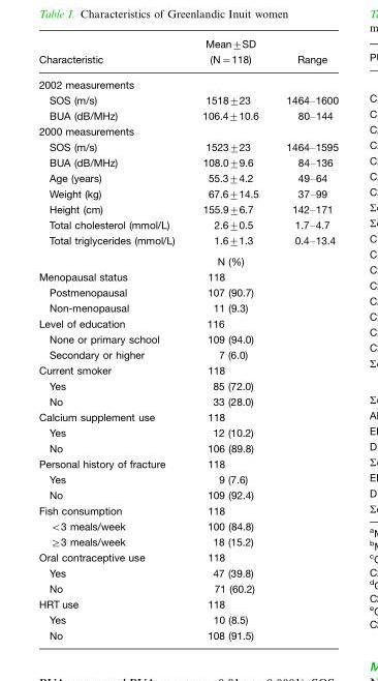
<table><thead><tr><td>Characteristic</td><td>Mean±SD (N=118)</td><td>Range</td></tr></thead><tbody><tr><td colspan="3">2002 measurements</td></tr><tr><td>SOS (m/s)</td><td>1518±23</td><td>1464–1600</td></tr><tr><td>BUA (dB/MHz)</td><td>106.4±10.6</td><td>80–144</td></tr><tr><td colspan="3">2000 measurements</td></tr><tr><td>SOS (m/s)</td><td>1523±23</td><td>1464–1595</td></tr><tr><td>BUA (dB/MHz)</td><td>108.0±9.6</td><td>84–136</td></tr><tr><td>Age (years)</td><td>55.3±4.2</td><td>49–64</td></tr><tr><td>Weight (kg)</td><td>67.6±14.5</td><td>37–99</td></tr><tr><td>Height (cm)</td><td>155.9±6.7</td><td>142–171</td></tr><tr><td>Total cholesterol (mmol/L)</td><td>2.6±0.5</td><td>1.7–4.7</td></tr><tr><td rowspan="2">Total triglycerides (mmol/L)</td><td>1.6±1.3</td><td>0.4–13.4</td></tr><tr><td>N (%)</td><td></td></tr><tr><td>Menopausal status</td><td>118</td><td></td></tr><tr><td>Postmenopausal</td><td>107 (90.7)</td><td></td></tr><tr><td>Non-menopausal</td><td>11 (9.3)</td><td></td></tr><tr><td>Level of education</td><td>116</td><td></td></tr><tr><td>None or primary school</td><td>109 (94.0)</td><td></td></tr><tr><td>Secondary or higher</td><td>7 (6.0)</td><td></td></tr><tr><td>Current smoker</td><td>118</td><td></td></tr><tr><td>Yes</td><td>85 (72.0)</td><td></td></tr><tr><td>No</td><td>33 (28.0)</td><td></td></tr><tr><td>Calcium supplement use</td><td>118</td><td></td></tr><tr><td>Yes</td><td>12 (10.2)</td><td></td></tr><tr><td>No</td><td>106 (89.8)</td><td></td></tr><tr><td>Personal history of fracture</td><td>118</td><td></td></tr><tr><td>Yes</td><td>9 (7.6)</td><td></td></tr><tr><td>No</td><td>109 (92.4)</td><td></td></tr><tr><td>Fish consumption</td><td>118</td><td></td></tr><tr><td>&lt;3 meals/week</td><td>100 (84.8)</td><td></td></tr><tr><td>≥3 meals/week</td><td>18 (15.2)</td><td></td></tr><tr><td>Oral contraceptive use</td><td>118</td><td></td></tr><tr><td>Yes</td><td>47 (39.8)</td><td></td></tr><tr><td>No</td><td>71 (60.2)</td><td></td></tr><tr><td>HRT use</td><td>118</td><td></td></tr><tr><td>Yes</td><td>10 (8.5)</td><td></td></tr><tr><td>No</td><td>108 (91.5)</td><td></td></tr></tbody></table>